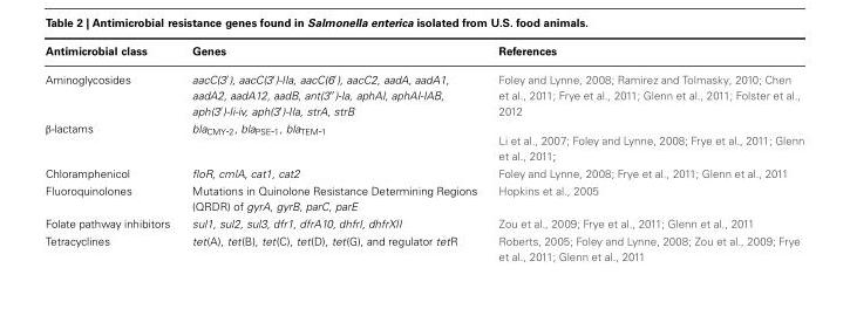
<table><thead><tr><td>Antimicrobial class</td><td>Genes</td><td>References</td></tr></thead><tbody><tr><td>Aminoglycosides</td><td>aacC(3′), aacC(3′)-IIa, aacC(6′), aacC2, aadA, aadA1, aadA2, aadA12, aadB, ant(3′′)-Ia, aphAI, aphAI-IAB, aph(3′)-Ii-iv, aph(3′)-IIa, strA, strB</td><td>Foley and Lynne, 2008; Ramirez and Tolmasky, 2010; Chen et al., 2011; Frye et al., 2011; Glenn et al., 2011; Folster et al., 2012</td></tr><tr><td>β-lactams</td><td>bla<sub>CMY-2</sub>, bla<sub>PSE-1</sub>, bla<sub>TEM-1</sub></td><td>Li et al., 2007; Foley and Lynne, 2008; Frye et al., 2011; Glenn et al., 2011;</td></tr><tr><td>Chloramphenicol</td><td>floR, cmlA, cat1, cat2</td><td>Foley and Lynne, 2008; Frye et al., 2011; Glenn et al., 2011</td></tr><tr><td>Fluoroquinolones</td><td>Mutations in Quinolone Resistance Determining Regions (QRDR) of gyrA, gyrB, parC, parE</td><td>Hopkins et al., 2005</td></tr><tr><td>Folate pathway inhibitors</td><td>sul1, sul2, sul3, dfr1, dfrA10, dhfrI, dhfrXII</td><td>Zou et al., 2009; Frye et al., 2011; Glenn et al., 2011</td></tr><tr><td>Tetracyclines</td><td>tet(A), tet(B), tet(C), tet(D), tet(G), and regulator tetR</td><td>Roberts, 2005; Foley and Lynne, 2008; Zou et al., 2009; Frye et al., 2011; Glenn et al., 2011</td></tr></tbody></table>